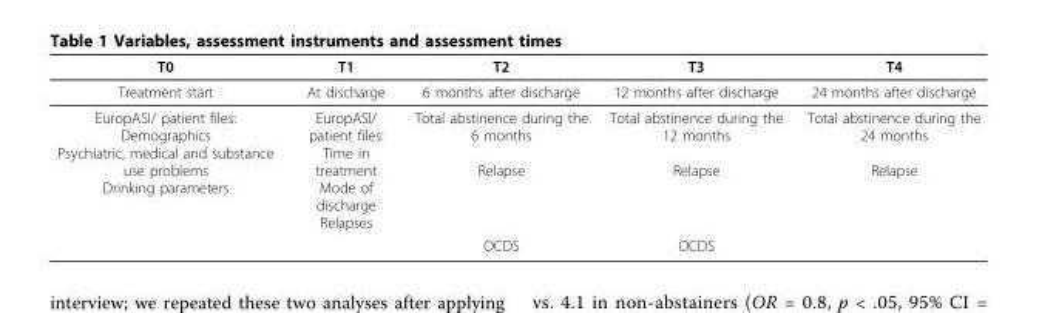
<table><thead><tr><td>T0</td><td>T1</td><td>T2</td><td>T3</td><td>T4</td></tr></thead><tbody><tr><td>Treatment start</td><td>At discharge</td><td>6 months after discharge</td><td>12 months after discharge</td><td>24 months after discharge</td></tr><tr><td rowspan="2">EuropASI/ patient files: Demographics Psychiatric, medical and substance use problems Drinking parameters</td><td>EuropASI/ patient files: Time in treatment Mode of discharge Relapses</td><td>Total abstinence during the 6 months Relapse</td><td>Total abstinence during the 12 months Relapse</td><td>Total abstinence during the 24 months Relapse</td></tr><tr><td></td><td>OCDS</td><td>OCDS</td><td></td></tr></tbody></table>